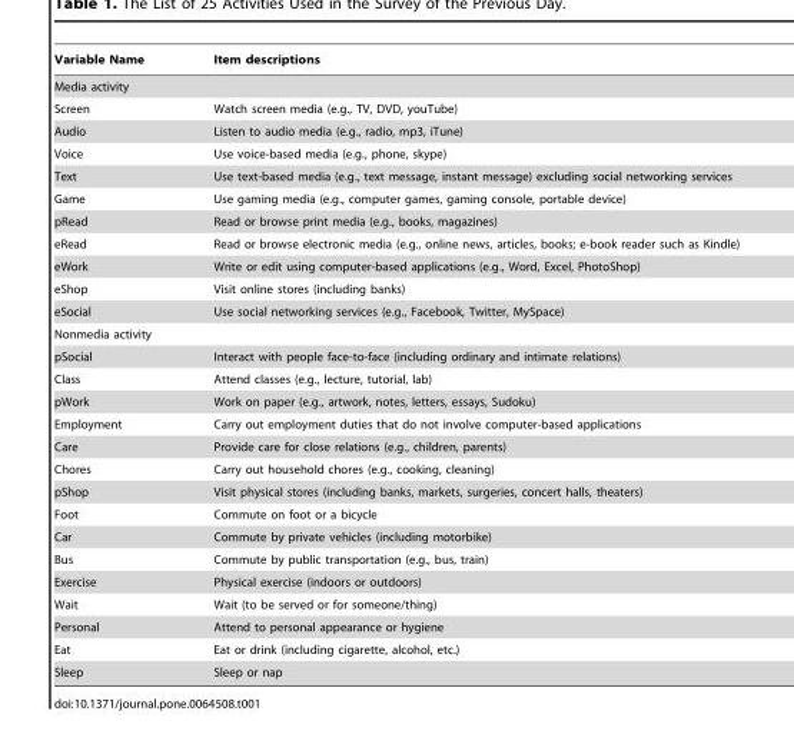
<table><thead><tr><td>Variable Name</td><td>Item descriptions</td></tr></thead><tbody><tr><td colspan="2">Media activity</td></tr><tr><td>Screen</td><td>Watch screen media (e.g., TV, DVD, youTube)</td></tr><tr><td>Audio</td><td>Listen to audio media (e.g., radio, mp3, iTune)</td></tr><tr><td>Voice</td><td>Use voice-based media (e.g., phone, skype)</td></tr><tr><td>Text</td><td>Use text-based media (e.g., text message, instant message) excluding social networking services</td></tr><tr><td>Game</td><td>Use gaming media (e.g., computer games, gaming console, portable device)</td></tr><tr><td>pRead</td><td>Read or browse print media (e.g., books, magazines)</td></tr><tr><td>eRead</td><td>Read or browse electronic media (e.g., online news, articles, books; e-book reader such as Kindle)</td></tr><tr><td>eWork</td><td>Write or edit using computer-based applications (e.g., Word, Excel, PhotoShop)</td></tr><tr><td>eShop</td><td>Visit online stores (including banks)</td></tr><tr><td>eSocial</td><td>Use social networking services (e.g., Facebook, Twitter, MySpace)</td></tr><tr><td colspan="2">Nonmedia activity</td></tr><tr><td>pSocial</td><td>Interact with people face-to-face (including ordinary and intimate relations)</td></tr><tr><td>Class</td><td>Attend classes (e.g., lecture, tutorial, lab)</td></tr><tr><td>pWork</td><td>Work on paper (e.g., artwork, notes, letters, essays, Sudoku)</td></tr><tr><td>Employment</td><td>Carry out employment duties that do not involve computer-based applications</td></tr><tr><td>Care</td><td>Provide care for close relations (e.g., children, parents)</td></tr><tr><td>Chores</td><td>Carry out household chores (e.g., cooking, cleaning)</td></tr><tr><td>pShop</td><td>Visit physical stores (including banks, markets, surgeries, concert halls, theaters)</td></tr><tr><td>Foot</td><td>Commute on foot or a bicycle</td></tr><tr><td>Car</td><td>Commute by private vehicles (including motorbike)</td></tr><tr><td>Bus</td><td>Commute by public transportation (e.g., bus, train)</td></tr><tr><td>Exercise</td><td>Physical exercise (indoors or outdoors)</td></tr><tr><td>Wait</td><td>Wait (to be served or for someone/thing)</td></tr><tr><td>Personal</td><td>Attend to personal appearance or hygiene</td></tr><tr><td>Eat</td><td>Eat or drink (including cigarette, alcohol, etc.)</td></tr><tr><td>Sleep</td><td>Sleep or nap</td></tr></tbody></table>